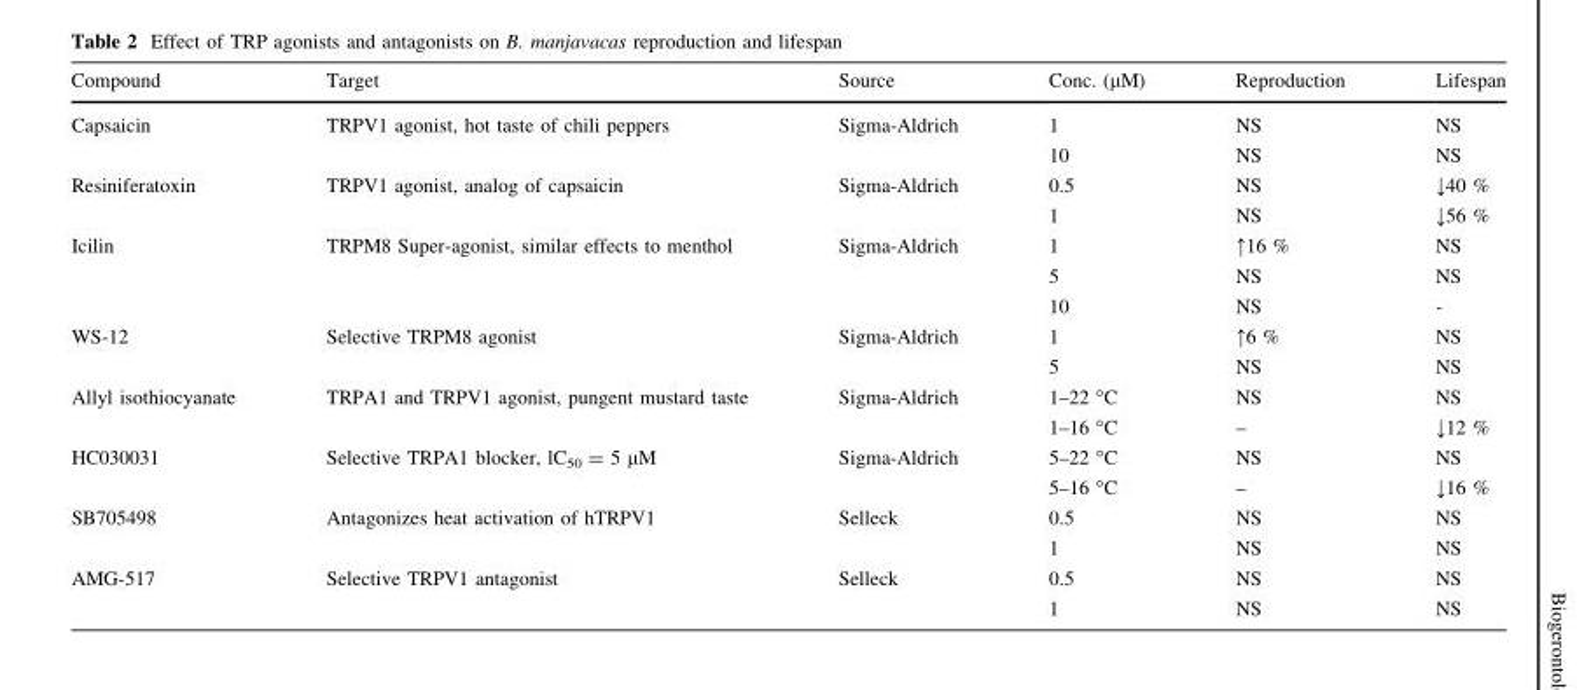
<table><thead><tr><td>Compound</td><td>Target</td><td>Source</td><td>Conc. (μM)</td><td>Reproduction</td><td>Lifespan</td></tr></thead><tbody><tr><td rowspan="2">Capsaicin</td><td rowspan="2">TRPV1 agonist, hot taste of chili peppers</td><td rowspan="2">Sigma-Aldrich</td><td>1</td><td>NS</td><td>NS</td></tr><tr><td>10</td><td>NS</td><td>NS</td></tr><tr><td rowspan="2">Resiniferatoxin</td><td rowspan="2">TRPV1 agonist, analog of capsaicin</td><td rowspan="2">Sigma-Aldrich</td><td>0.5</td><td>NS</td><td>↓40 %</td></tr><tr><td>1</td><td>NS</td><td>↓56 %</td></tr><tr><td rowspan="3">Icilin</td><td rowspan="3">TRPM8 Super-agonist, similar effects to menthol</td><td rowspan="3">Sigma-Aldrich</td><td>1</td><td>↑16 %</td><td>NS</td></tr><tr><td>5</td><td>NS</td><td>NS</td></tr><tr><td>10</td><td>NS</td><td>-</td></tr><tr><td rowspan="2">WS-12</td><td rowspan="2">Selective TRPM8 agonist</td><td rowspan="2">Sigma-Aldrich</td><td>1</td><td>↑6 %</td><td>NS</td></tr><tr><td>5</td><td>NS</td><td>NS</td></tr><tr><td rowspan="2">Allyl isothiocyanate</td><td rowspan="2">TRPA1 and TRPV1 agonist, pungent mustard taste</td><td rowspan="2">Sigma-Aldrich</td><td>1–22 °C</td><td>NS</td><td>NS</td></tr><tr><td>1–16 °C</td><td>–</td><td>↓12 %</td></tr><tr><td rowspan="2">HC030031</td><td rowspan="2">Selective TRPA1 blocker, lC<sub>50</sub> = 5 μM</td><td rowspan="2">Sigma-Aldrich</td><td>5–22 °C</td><td>NS</td><td>NS</td></tr><tr><td>5–16 °C</td><td>–</td><td>↓16 %</td></tr><tr><td rowspan="2">SB705498</td><td rowspan="2">Antagonizes heat activation of hTRPV1</td><td rowspan="2">Selleck</td><td>0.5</td><td>NS</td><td>NS</td></tr><tr><td>1</td><td>NS</td><td>NS</td></tr><tr><td rowspan="2">AMG-517</td><td rowspan="2">Selective TRPV1 antagonist</td><td rowspan="2">Selleck</td><td>0.5</td><td>NS</td><td>NS</td></tr><tr><td>1</td><td>NS</td><td>NS</td></tr></tbody></table>